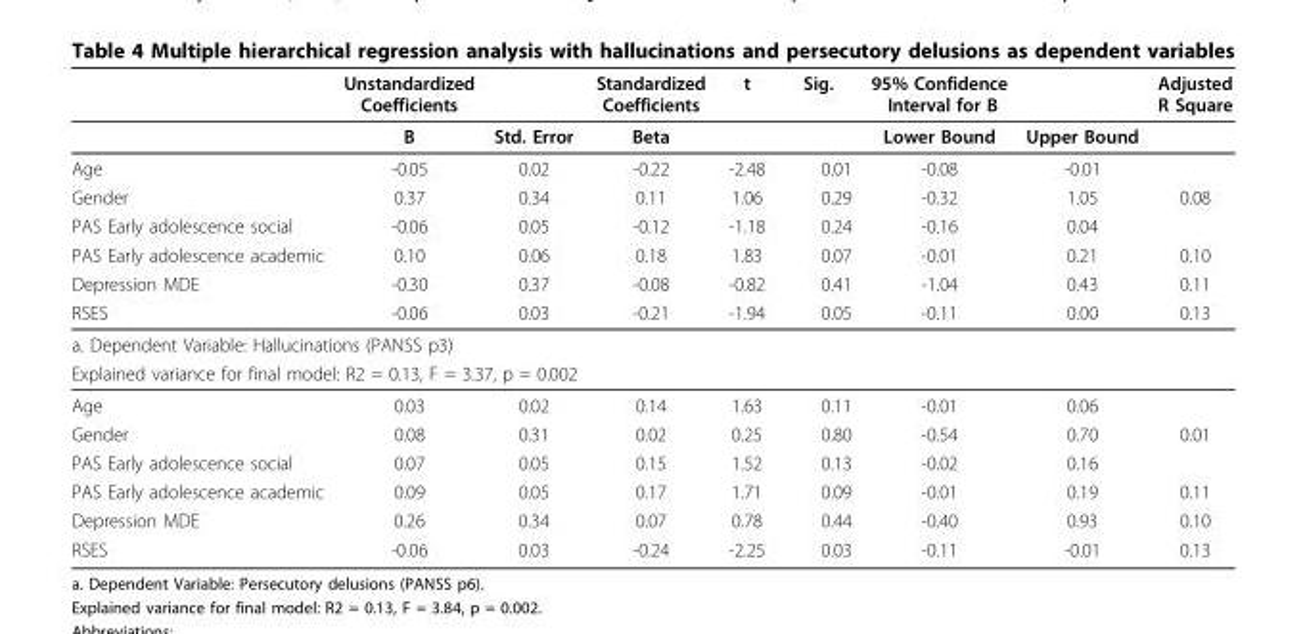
<table><thead><tr><td></td><td>Unstandardized Coefficients</td><td></td><td>Standardized Coefficients</td><td>t</td><td>Sig.</td><td>95% Confidence Interval for B</td><td></td><td>Adjusted R Square</td></tr></thead><tbody><tr><td></td><td>B</td><td>Std. Error</td><td>Beta</td><td></td><td></td><td>Lower Bound</td><td>Upper Bound</td><td></td></tr><tr><td>Age</td><td>-0.05</td><td>0.02</td><td>-0.22</td><td>-2.48</td><td>0.01</td><td>-0.08</td><td>-0.01</td><td></td></tr><tr><td>Gender</td><td>0.37</td><td>0.34</td><td>0.11</td><td>1.06</td><td>0.29</td><td>-0.32</td><td>1.05</td><td>0.08</td></tr><tr><td>PAS Early adolescence social</td><td>-0.06</td><td>0.05</td><td>-0.12</td><td>-1.18</td><td>0.24</td><td>-0.16</td><td>0.04</td><td></td></tr><tr><td>PAS Early adolescence academic</td><td>0.10</td><td>0.06</td><td>0.18</td><td>1.83</td><td>0.07</td><td>-0.01</td><td>0.21</td><td>0.10</td></tr><tr><td>Depression MDE</td><td>-0.30</td><td>0.37</td><td>-0.08</td><td>-0.82</td><td>0.41</td><td>-1.04</td><td>0.43</td><td>0.11</td></tr><tr><td>RSES</td><td>-0.06</td><td>0.03</td><td>-0.21</td><td>-1.94</td><td>0.05</td><td>-0.11</td><td>0.00</td><td>0.13</td></tr><tr><td colspan="9">a. Dependent Variable: Hallucinations (PANSS p3)</td></tr><tr><td colspan="9">Explained variance for final model: R2 = 0.13, F = 3.37, p = 0.002</td></tr><tr><td>Age</td><td>0.03</td><td>0.02</td><td>0.14</td><td>1.63</td><td>0.11</td><td>-0.01</td><td>0.06</td><td></td></tr><tr><td>Gender</td><td>0.08</td><td>0.31</td><td>0.02</td><td>0.25</td><td>0.80</td><td>-0.54</td><td>0.70</td><td>0.01</td></tr><tr><td>PAS Early adolescence social</td><td>0.07</td><td>0.05</td><td>0.15</td><td>1.52</td><td>0.13</td><td>-0.02</td><td>0.16</td><td></td></tr><tr><td>PAS Early adolescence academic</td><td>0.09</td><td>0.05</td><td>0.17</td><td>1.71</td><td>0.09</td><td>-0.01</td><td>0.19</td><td>0.11</td></tr><tr><td>Depression MDE</td><td>0.26</td><td>0.34</td><td>0.07</td><td>0.78</td><td>0.44</td><td>-0.40</td><td>0.93</td><td>0.10</td></tr><tr><td>RSES</td><td>-0.06</td><td>0.03</td><td>-0.24</td><td>-2.25</td><td>0.03</td><td>-0.11</td><td>-0.01</td><td>0.13</td></tr></tbody></table>